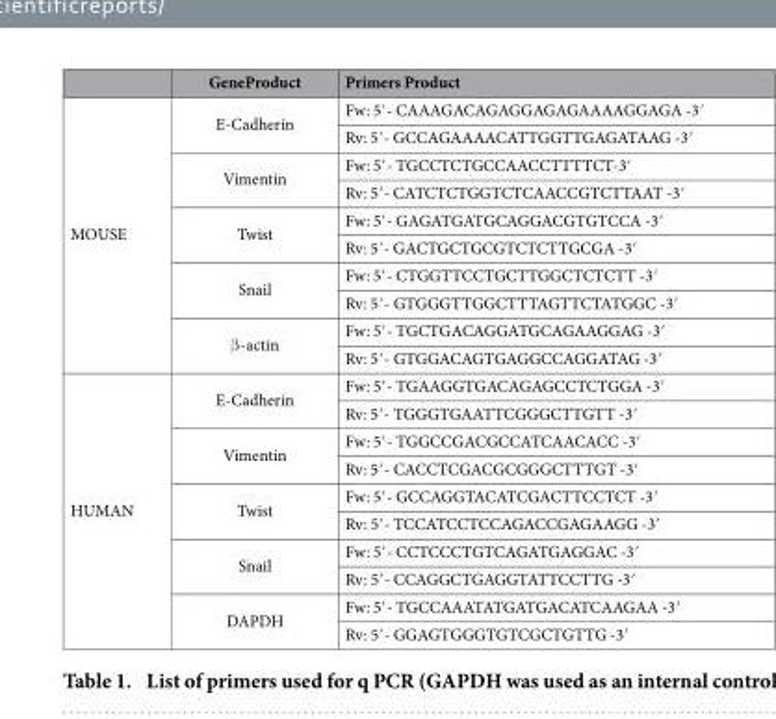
<table><thead><tr><td></td><td>GeneProduct</td><td>Primers Product</td></tr></thead><tbody><tr><td rowspan="10">MOUSE</td><td rowspan="2">E-Cadherin</td><td>Fw: 5′ - CAAAGACAGAGGAGAGAAAAGGAGA -3′</td></tr><tr><td>Rv: 5′ - GCCAGAAAACATTGGTTGAGATAAG -3′</td></tr><tr><td rowspan="2">Vimentin</td><td>Fw: 5′ - TGCCTCTGCCAACCTTTTCT-3′</td></tr><tr><td>Rv: 5′ - CATCTCTGGTCTCAACCGTCTTAAT -3′</td></tr><tr><td rowspan="2">Twist</td><td>Fw: 5′ - GAGATGATGCAGGACGTGTCCA -3′</td></tr><tr><td>Rv: 5′ - GACTGCTGCGTCTCTTGCGA -3′</td></tr><tr><td rowspan="2">Snail</td><td>Fw: 5′ - CTGGTTCCTGCTTGGCTCTCTT -3′</td></tr><tr><td>Rv: 5′ - GTGGGTTGGCTTTAGTTCTATGGC -3′</td></tr><tr><td rowspan="2">β -actin</td><td>Fw: 5′ - TGCTGACAGGATGCAGAAGGAG -3′</td></tr><tr><td>Rv: 5′ - GTGGACAGTGAGGCCAGGATAG -3′</td></tr><tr><td rowspan="10">HUMAN</td><td rowspan="2">E-Cadherin</td><td>Fw: 5′ - TGAAGGTGACAGAGCCTCTGGA -3′</td></tr><tr><td>Rv: 5′ - TGGGTGAATTCGGGCTTGTT -3′</td></tr><tr><td rowspan="2">Vimentin</td><td>Fw: 5′ - TGGCCGACGCCATCAACACC -3′</td></tr><tr><td>Rv: 5′ - CACCTCGACGCGGGCTTTGT -3′</td></tr><tr><td rowspan="2">Twist</td><td>Fw: 5′ - GCCAGGTACATCGACTTCCTCT -3′</td></tr><tr><td>Rv: 5′ - TCCATCCTCCAGACCGAGAAGG -3′</td></tr><tr><td rowspan="2">Snail</td><td>Fw: 5′ - CCTCCCTGTCAGATGAGGAC -3′</td></tr><tr><td>Rv: 5′ - CCAGGCTGAGGTATTCCTTG -3′</td></tr><tr><td rowspan="2">DAPDH</td><td>Fw: 5′ - TGCCAAATATGATGACATCAAGAA -3′</td></tr><tr><td>Rv: 5′ - GGAGTGGGTGTCGCTGTTG -3′</td></tr></tbody></table>